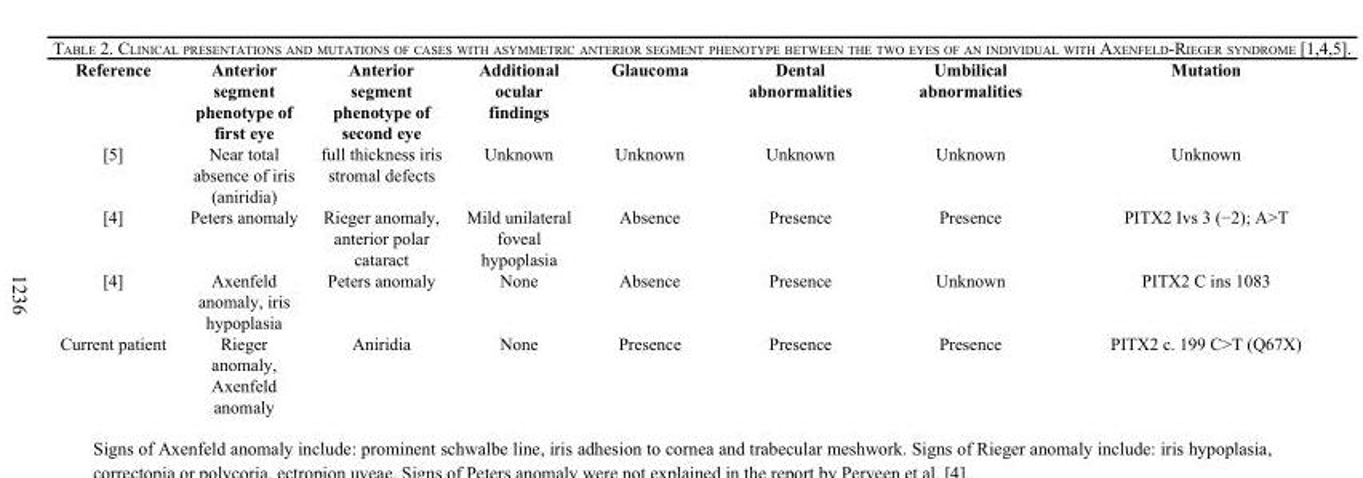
<table><thead><tr><td>Reference</td><td>Anterior segment phenotype of first eye</td><td>Anterior segment phenotype of second eye</td><td>Additional ocular findings</td><td>Glaucoma</td><td>Dental abnormalities</td><td>Umbilical abnormalities</td><td>Mutation</td></tr></thead><tbody><tr><td>[5]</td><td>Near total absence of iris (aniridia)</td><td>full thickness iris stromal defects</td><td>Unknown</td><td>Unknown</td><td>Unknown</td><td>Unknown</td><td>Unknown</td></tr><tr><td>[4]</td><td>Peters anomaly</td><td>Rieger anomaly, anterior polar cataract</td><td>Mild unilateral foveal hypoplasia</td><td>Absence</td><td>Presence</td><td>Presence</td><td>PITX2 Ivs 3 (−2); A&gt;T</td></tr><tr><td>[4]</td><td>Axenfeld anomaly, iris hypoplasia</td><td>Peters anomaly</td><td>None</td><td>Absence</td><td>Presence</td><td>Unknown</td><td>PITX2 C ins 1083</td></tr><tr><td>Current patient</td><td>Rieger anomaly, Axenfeld anomaly</td><td>Aniridia</td><td>None</td><td>Presence</td><td>Presence</td><td>Presence</td><td>PITX2 c. 199 C&gt;T (Q67X)</td></tr></tbody></table>